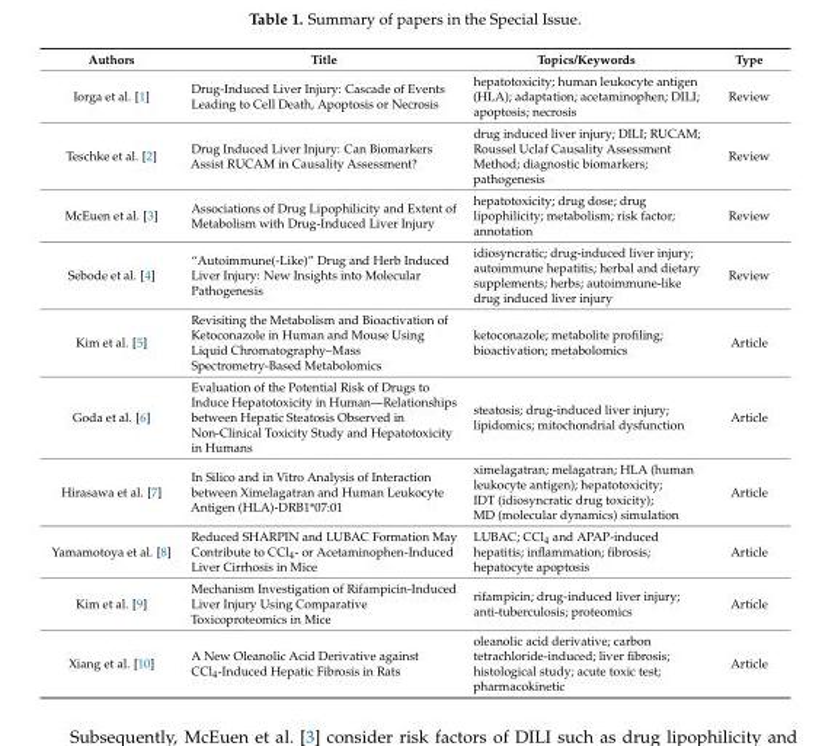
<table><thead><tr><td>Authors</td><td>Title</td><td>Topics/Keywords</td><td>Type</td></tr></thead><tbody><tr><td>Iorga et al. [1]</td><td>Drug-Induced Liver Injury: Cascade of Events Leading to Cell Death, Apoptosis or Necrosis</td><td>hepatotoxicity; human leukocyte antigen (HLA); adaptation; acetaminophen; DILI; apoptosis; necrosis</td><td>Review</td></tr><tr><td>Teschke et al. [2]</td><td>Drug Induced Liver Injury: Can Biomarkers Assist RUCAM in Causality Assessment?</td><td>drug induced liver injury; DILI; RUCAM; Roussel Uclaf Causality Assessment Method; diagnostic biomarkers; pathogenesis</td><td>Review</td></tr><tr><td>McEuen et al. [3]</td><td>Associations of Drug Lipophilicity and Extent of Metabolism with Drug-Induced Liver Injury</td><td>hepatotoxicity; drug dose; drug lipophilicity; metabolism; risk factor; annotation</td><td>Review</td></tr><tr><td>Sebode et al. [4]</td><td>“Autoimmune(-Like)” Drug and Herb Induced Liver Injury: New Insights into Molecular Pathogenesis</td><td>idiosyncratic; drug-induced liver injury; autoimmune hepatitis; herbal and dietary supplements; herbs; autoimmune-like drug induced liver injury</td><td>Review</td></tr><tr><td>Kim et al. [5]</td><td>Revisiting the Metabolism and Bioactivation of Ketoconazole in Human and Mouse Using Liquid Chromatography–Mass Spectrometry-Based Metabolomics</td><td>ketoconazole; metabolite profiling; bioactivation; metabolomics</td><td>Article</td></tr><tr><td>Goda et al. [6]</td><td>Evaluation of the Potential Risk of Drugs to Induce Hepatotoxicity in Human—Relationships between Hepatic Steatosis Observed in Non-Clinical Toxicity Study and Hepatotoxicity in Humans</td><td>steatosis; drug-induced liver injury; lipidomics; mitochondrial dysfunction</td><td>Article</td></tr><tr><td>Hirasawa et al. [7]</td><td>In Silico and in Vitro Analysis of Interaction between Ximelagatran and Human Leukocyte Antigen (HLA)-DRB1*07:01</td><td>ximelagatran; melagatran; HLA (human leukocyte antigen); hepatotoxicity; IDT (idiosyncratic drug toxicity); MD (molecular dynamics) simulation</td><td>Article</td></tr><tr><td>Yamamotoya et al. [8]</td><td>Reduced SHARPIN and LUBAC Formation May Contribute to CCl<sub>4</sub>- or Acetaminophen-Induced Liver Cirrhosis in Mice</td><td>LUBAC; CCl<sub>4</sub> and APAP-induced hepatitis; inflammation; fibrosis; hepatocyte apoptosis</td><td>Article</td></tr><tr><td>Kim et al. [9]</td><td>Mechanism Investigation of Rifampicin-Induced Liver Injury Using Comparative Toxicoproteomics in Mice</td><td>rifampicin; drug-induced liver injury; anti-tuberculosis; proteomics</td><td>Article</td></tr><tr><td>Xiang et al. [10]</td><td>A New Oleanolic Acid Derivative against CCl<sub>4</sub>-Induced Hepatic Fibrosis in Rats</td><td>oleanolic acid derivative; carbon tetrachloride-induced; liver fibrosis; histological study; acute toxic test; pharmacokinetic</td><td>Article</td></tr></tbody></table>